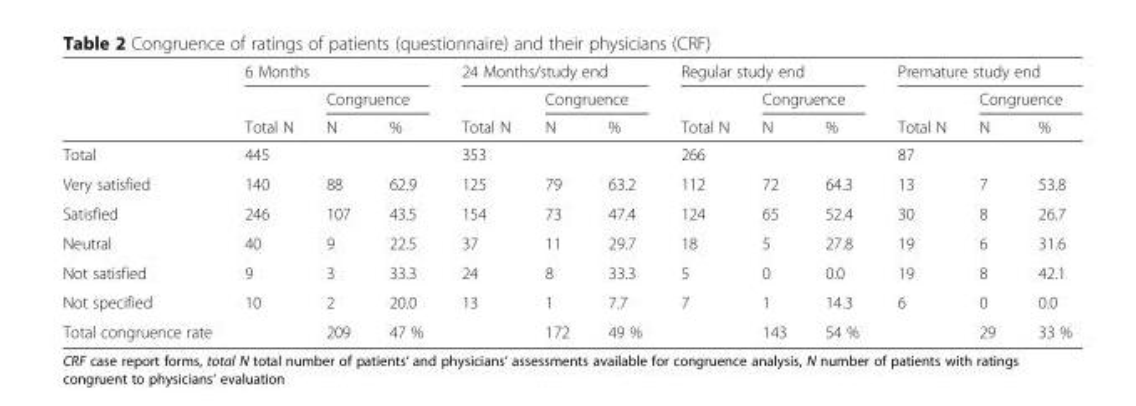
<table><thead><tr><td rowspan="3"></td><td colspan="3">6 Months</td><td colspan="3">24 Months/study end</td><td colspan="3">Regular study end</td><td colspan="3">Premature study end</td></tr><tr><td rowspan="2">Total N</td><td colspan="2">Congruence</td><td rowspan="2">Total N</td><td colspan="2">Congruence</td><td rowspan="2">Total N</td><td colspan="2">Congruence</td><td rowspan="2">Total N</td><td colspan="2">Congruence</td></tr><tr><td>N</td><td>%</td><td>N</td><td>%</td><td>N</td><td>%</td><td>N</td><td>%</td></tr></thead><tbody><tr><td>Total</td><td>445</td><td></td><td></td><td>353</td><td></td><td></td><td>266</td><td></td><td></td><td>87</td><td></td><td></td></tr><tr><td>Very satisfied</td><td>140</td><td>88</td><td>62.9</td><td>125</td><td>79</td><td>63.2</td><td>112</td><td>72</td><td>64.3</td><td>13</td><td>7</td><td>53.8</td></tr><tr><td>Satisfied</td><td>246</td><td>107</td><td>43.5</td><td>154</td><td>73</td><td>47.4</td><td>124</td><td>65</td><td>52.4</td><td>30</td><td>8</td><td>26.7</td></tr><tr><td>Neutral</td><td>40</td><td>9</td><td>22.5</td><td>37</td><td>11</td><td>29.7</td><td>18</td><td>5</td><td>27.8</td><td>19</td><td>6</td><td>31.6</td></tr><tr><td>Not satisfied</td><td>9</td><td>3</td><td>33.3</td><td>24</td><td>8</td><td>33.3</td><td>5</td><td>0</td><td>0.0</td><td>19</td><td>8</td><td>42.1</td></tr><tr><td>Not specified</td><td>10</td><td>2</td><td>20.0</td><td>13</td><td>1</td><td>7.7</td><td>7</td><td>1</td><td>14.3</td><td>6</td><td>0</td><td>0.0</td></tr><tr><td>Total congruence rate</td><td></td><td>209</td><td>47 %</td><td></td><td>172</td><td>49 %</td><td></td><td>143</td><td>54 %</td><td></td><td>29</td><td>33 %</td></tr></tbody></table>